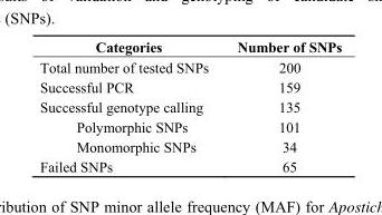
<table><thead><tr><td>Categories</td><td>Number of SNPs</td></tr></thead><tbody><tr><td>Total number of tested SNPs</td><td>200</td></tr><tr><td>Successful PCR</td><td>159</td></tr><tr><td>Successful genotype calling</td><td>135</td></tr><tr><td>Polymorphic SNPs</td><td>101</td></tr><tr><td>Monomorphic SNPs</td><td>34</td></tr><tr><td>Failed SNPs</td><td>65</td></tr></tbody></table>